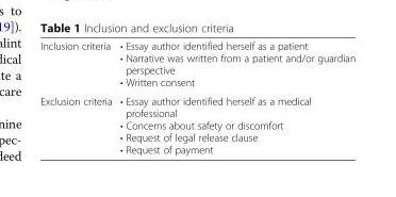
<table><tbody><tr><td>Inclusion criteria</td><td>• Essay author identified herself as a patient • Narrative was written from a patient and/or guardian perspective • Written consent</td></tr><tr><td>Exclusion criteria</td><td>• Essay author identified herself as a medical professional • Concerns about safety or discomfort • Request of legal release clause • Request of payment</td></tr></tbody></table>